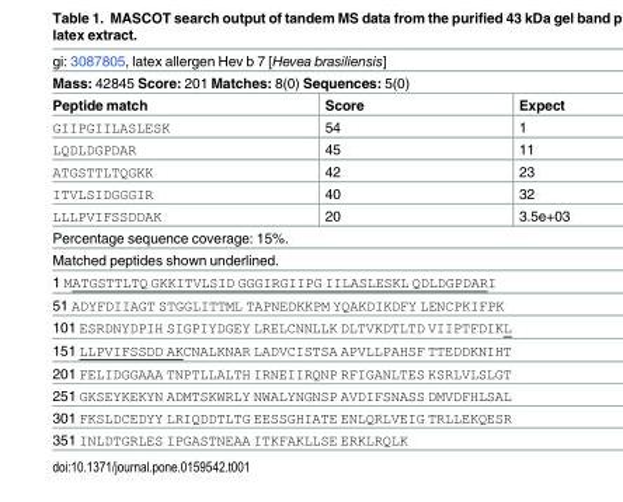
<table><tbody><tr><td colspan="3">gi: 3087805, latex allergen Hev b 7 [Hevea brasiliensis]</td></tr><tr><td colspan="3">Mass: 42845 Score: 201 Matches: 8(0) Sequences: 5(0)</td></tr><tr><td>Peptide match</td><td>Score</td><td>Expect</td></tr><tr><td>GIIPGIILASLESK</td><td>54</td><td>1</td></tr><tr><td>LQDLDGPDAR</td><td>45</td><td>11</td></tr><tr><td>ATGSTTLTQGKK</td><td>42</td><td>23</td></tr><tr><td>ITVLSIDGGGIR</td><td>40</td><td>32</td></tr><tr><td>LLLPVIFSSDDAK</td><td>20</td><td>3.5e+03</td></tr><tr><td colspan="3">Percentage sequence coverage: 15%.</td></tr><tr><td colspan="3">Matched peptides shown underlined.</td></tr><tr><td colspan="3">1 MATGSTTLTQ GKKITVLSID GGGIRGIIPG IILASLESKL QDLDGPDARI</td></tr><tr><td colspan="3">51 ADYFDIIAGT STGGLITTML TAPNEDKKPM YQAKDIKDFY LENCPKIFPK</td></tr><tr><td colspan="3">101 ESRDNYDPIH SIGPIYDGEY LRELCNNLLK DLTVKDTLTD VIIPTFDIKL</td></tr><tr><td colspan="3">151 LLPVIFSSDD AKCNALKNAR LADVCISTSA APVLLPAHSF TTEDDKNIHT</td></tr><tr><td colspan="3">201 FELIDGGAAA TNPTLLALTH IRNEIIRQNP RFIGANLTES KSRLVLSLGT</td></tr><tr><td colspan="3">251 GKSEYKEKYN ADMTSKWRLY NWALYNGNSP AVDIFSNASS DMVDFHLSAL</td></tr><tr><td colspan="3">301 FKSLDCEDYY LRIQDDTLTG EESSGHIATE ENLQRLVEIG TRLLEKQESR</td></tr><tr><td colspan="3">351 INLDTGRLES IPGASTNEAA ITKFAKLLSE ERKLRQLK</td></tr></tbody></table>